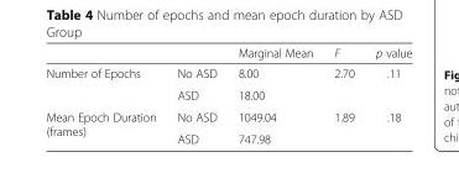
<table><thead><tr><td></td><td></td><td>Marginal Mean</td><td>F</td><td>p value</td></tr></thead><tbody><tr><td rowspan="2">Number of Epochs</td><td>No ASD</td><td>8.00</td><td rowspan="2">2.70</td><td rowspan="2">.11</td></tr><tr><td>ASD</td><td>18.00</td></tr><tr><td rowspan="2">Mean Epoch Duration (frames)</td><td>No ASD</td><td>1049.04</td><td rowspan="2">1.89</td><td rowspan="2">.18</td></tr><tr><td>ASD</td><td>747.98</td></tr></tbody></table>